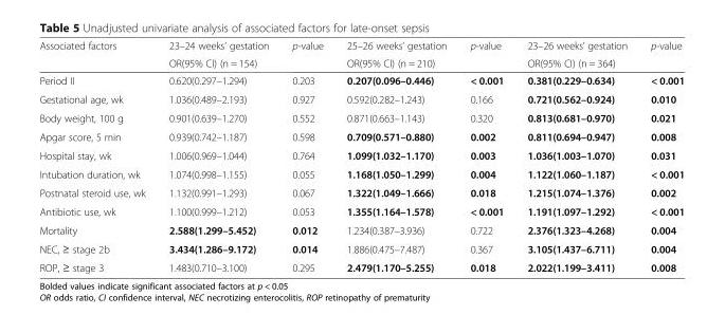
<table><thead><tr><td rowspan="2">Associated factors</td><td rowspan="2">23–24 weeks’ gestation OR(95% CI) (n = 154)</td><td rowspan="2">p-value</td><td rowspan="2">25–26 weeks’ gestation OR(95% CI) (n = 210)</td><td rowspan="2">p-value</td><td rowspan="2">23–26 weeks’ gestation OR(95% CI) (n = 364)</td><td rowspan="2">p-value</td></tr><tr></tr></thead><tbody><tr><td>Period II</td><td>0.620(0.297–1.294)</td><td>0.203</td><td>0.207(0.096–0.446)</td><td>&lt; 0.001</td><td>0.381(0.229–0.634)</td><td>&lt; 0.001</td></tr><tr><td>Gestational age, wk</td><td>1.036(0.489–2.193)</td><td>0.927</td><td>0.592(0.282–1.243)</td><td>0.166</td><td>0.721(0.562–0.924)</td><td>0.010</td></tr><tr><td>Body weight, 100 g</td><td>0.901(0.639–1.270)</td><td>0.552</td><td>0.871(0.663–1.143)</td><td>0.320</td><td>0.813(0.681–0.970)</td><td>0.021</td></tr><tr><td>Apgar score, 5 min</td><td>0.939(0.742–1.187)</td><td>0.598</td><td>0.709(0.571–0.880)</td><td>0.002</td><td>0.811(0.694–0.947)</td><td>0.008</td></tr><tr><td>Hospital stay, wk</td><td>1.006(0.969–1.044)</td><td>0.764</td><td>1.099(1.032–1.170)</td><td>0.003</td><td>1.036(1.003–1.070)</td><td>0.031</td></tr><tr><td>Intubation duration, wk</td><td>1.074(0.998–1.155)</td><td>0.055</td><td>1.168(1.050–1.299)</td><td>0.004</td><td>1.122(1.060–1.187)</td><td>&lt; 0.001</td></tr><tr><td>Postnatal steroid use, wk</td><td>1.132(0.991–1.293)</td><td>0.067</td><td>1.322(1.049–1.666)</td><td>0.018</td><td>1.215(1.074–1.376)</td><td>0.002</td></tr><tr><td>Antibiotic use, wk</td><td>1.100(0.999–1.212)</td><td>0.053</td><td>1.355(1.164–1.578)</td><td>&lt; 0.001</td><td>1.191(1.097–1.292)</td><td>&lt; 0.001</td></tr><tr><td>Mortality</td><td>2.588(1.299–5.452)</td><td>0.012</td><td>1.234(0.387–3.936)</td><td>0.722</td><td>2.376(1.323–4.268)</td><td>0.004</td></tr><tr><td>NEC, ≥ stage 2b</td><td>3.434(1.286–9.172)</td><td>0.014</td><td>1.886(0.475–7.487)</td><td>0.367</td><td>3.105(1.437–6.711)</td><td>0.004</td></tr><tr><td>ROP, ≥ stage 3</td><td>1.483(0.710–3.100)</td><td>0.295</td><td>2.479(1.170–5.255)</td><td>0.018</td><td>2.022(1.199–3.411)</td><td>0.008</td></tr></tbody></table>